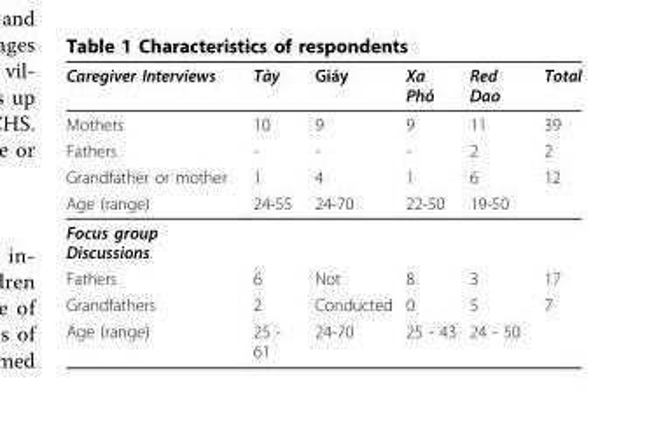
<table><thead><tr><td>Caregiver Interviews</td><td>Tày</td><td>Giáy</td><td>Xa Phó</td><td>Red Dao</td><td>Total</td></tr></thead><tbody><tr><td>Mothers</td><td>10</td><td>9</td><td>9</td><td>11</td><td>39</td></tr><tr><td>Fathers</td><td>-</td><td>-</td><td>-</td><td>2</td><td>2</td></tr><tr><td>Grandfather or mother</td><td>1</td><td>4</td><td>1</td><td>6</td><td>12</td></tr><tr><td>Age (range)</td><td>24-55</td><td>24-70</td><td>22-50</td><td>19-50</td><td></td></tr><tr><td colspan="6">Focus group Discussions</td></tr><tr><td>Fathers</td><td>6</td><td>Not</td><td>8</td><td>3</td><td>17</td></tr><tr><td>Grandfathers</td><td>2</td><td>Conducted</td><td>0</td><td>5</td><td>7</td></tr><tr><td>Age (range)</td><td>25 - 61</td><td>24-70</td><td>25 - 43</td><td>24 - 50</td><td></td></tr></tbody></table>